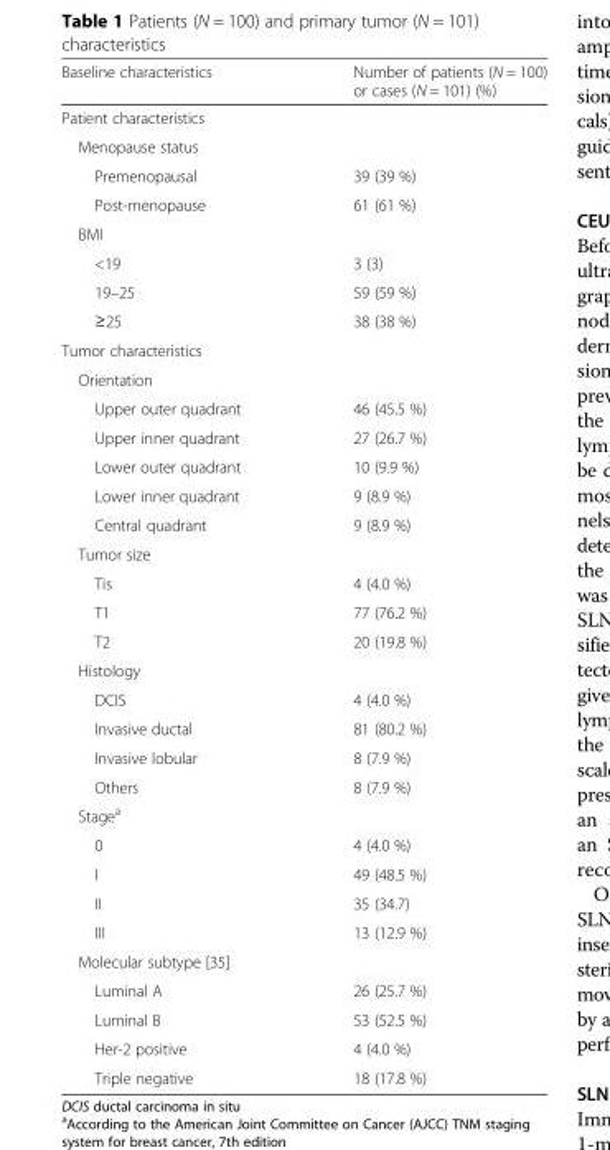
<table><thead><tr><td>Baseline characteristics</td><td>Number of patients (N = 100) or cases (N = 101) (%)</td></tr></thead><tbody><tr><td colspan="2">Patient characteristics</td></tr><tr><td colspan="2">Menopause status</td></tr><tr><td>Premenopausal</td><td>39 (39 %)</td></tr><tr><td>Post-menopause</td><td>61 (61 %)</td></tr><tr><td colspan="2">BMI</td></tr><tr><td>&lt;19</td><td>3 (3)</td></tr><tr><td>19–25</td><td>59 (59 %)</td></tr><tr><td>≥25</td><td>38 (38 %)</td></tr><tr><td colspan="2">Tumor characteristics</td></tr><tr><td colspan="2">Orientation</td></tr><tr><td>Upper outer quadrant</td><td>46 (45.5 %)</td></tr><tr><td>Upper inner quadrant</td><td>27 (26.7 %)</td></tr><tr><td>Lower outer quadrant</td><td>10 (9.9 %)</td></tr><tr><td>Lower inner quadrant</td><td>9 (8.9 %)</td></tr><tr><td>Central quadrant</td><td>9 (8.9 %)</td></tr><tr><td colspan="2">Tumor size</td></tr><tr><td>Tis</td><td>4 (4.0 %)</td></tr><tr><td>T1</td><td>77 (76.2 %)</td></tr><tr><td>T2</td><td>20 (19.8 %)</td></tr><tr><td colspan="2">Histology</td></tr><tr><td>DCIS</td><td>4 (4.0 %)</td></tr><tr><td>Invasive ductal</td><td>81 (80.2 %)</td></tr><tr><td>Invasive lobular</td><td>8 (7.9 %)</td></tr><tr><td>Others</td><td>8 (7.9 %)</td></tr><tr><td colspan="2">Stage<sup>a</sup></td></tr><tr><td>0</td><td>4 (4.0 %)</td></tr><tr><td>I</td><td>49 (48.5 %)</td></tr><tr><td>II</td><td>35 (34.7)</td></tr><tr><td>III</td><td>13 (12.9 %)</td></tr><tr><td colspan="2">Molecular subtype [35]</td></tr><tr><td>Luminal A</td><td>26 (25.7 %)</td></tr><tr><td>Luminal B</td><td>53 (52.5 %)</td></tr><tr><td>Her-2 positive</td><td>4 (4.0 %)</td></tr><tr><td>Triple negative</td><td>18 (17.8 %)</td></tr></tbody></table>